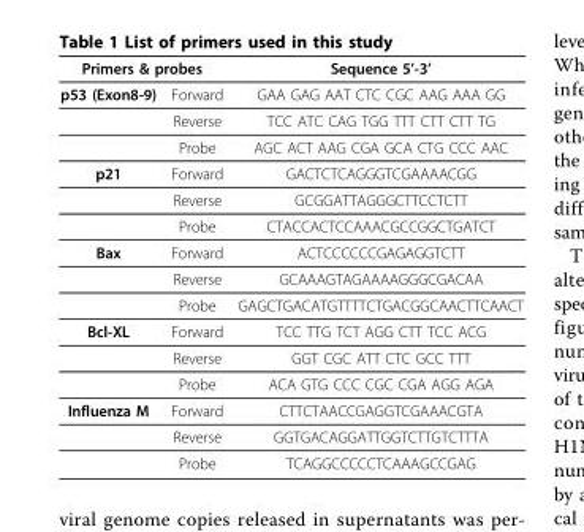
<table><thead><tr><td colspan="2">Primers &amp; probes</td><td rowspan="2">Sequence 5’-3’ GAA GAG AAT CTC CGC AAG AAA GG</td></tr><tr><td>p53 (Exon8-9)</td><td>Forward</td></tr></thead><tbody><tr><td></td><td>Reverse</td><td>TCC ATC CAG TGG TTT CTT CTT TG</td></tr><tr><td></td><td>Probe</td><td>AGC ACT AAG CGA GCA CTG CCC AAC</td></tr><tr><td rowspan="3">p21</td><td>Forward</td><td>GACTCTCAGGGTCGAAAACGG</td></tr><tr><td>Reverse</td><td>GCGGATTAGGGCTTCCTCTT</td></tr><tr><td>Probe</td><td>CTACCACTCCAAACGCCGGCTGATCT</td></tr><tr><td rowspan="3">Bax</td><td>Forward</td><td>ACTCCCCCCGAGAGGTCTT</td></tr><tr><td>Reverse</td><td>GCAAAGTAGAAAAGGGCGACAA</td></tr><tr><td>Probe</td><td>GAGCTGACATGTTTTCTGACGGCAACTTCAACT</td></tr><tr><td rowspan="3">Bcl-XL</td><td>Forward</td><td>TCC TTG TCT AGG CTT TCC ACG</td></tr><tr><td>Reverse</td><td>GGT CGC ATT CTC GCC TTT</td></tr><tr><td>Probe</td><td>ACA GTG CCC CGC CGA AGG AGA</td></tr><tr><td rowspan="3">Influenza M</td><td>Forward</td><td>CTTCTAACCGAGGTCGAAACGTA</td></tr><tr><td>Reverse</td><td>GGTGACAGGATTGGTCTTGTCTTTA</td></tr><tr><td>Probe</td><td>TCAGGCCCCCTCAAAGCCGAG</td></tr></tbody></table>